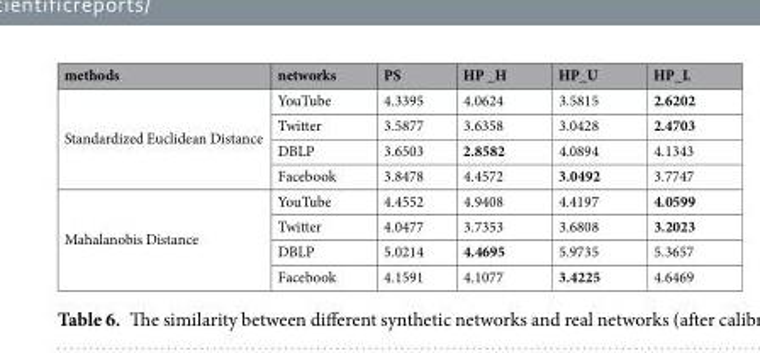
<table><thead><tr><td>methods</td><td>networks</td><td>PS</td><td>HP _H</td><td>HP_U</td><td>HP_L</td></tr></thead><tbody><tr><td rowspan="4">Standardized Euclidean Distance</td><td>YouTube</td><td>4.3395</td><td>4.0624</td><td>3.5815</td><td>2.6202</td></tr><tr><td>Twitter</td><td>3.5877</td><td>3.6358</td><td>3.0428</td><td>2.4703</td></tr><tr><td>DBLP</td><td>3.6503</td><td>2.8582</td><td>4.0894</td><td>4.1343</td></tr><tr><td>Facebook</td><td>3.8478</td><td>4.4572</td><td>3.0492</td><td>3.7747</td></tr><tr><td rowspan="4">Mahalanobis Distance</td><td>YouTube</td><td>4.4552</td><td>4.9408</td><td>4.4197</td><td>4.0599</td></tr><tr><td>Twitter</td><td>4.0477</td><td>3.7353</td><td>3.6808</td><td>3.2023</td></tr><tr><td>DBLP</td><td>5.0214</td><td>4.4695</td><td>5.9735</td><td>5.3657</td></tr><tr><td>Facebook</td><td>4.1591</td><td>4.1077</td><td>3.4225</td><td>4.6469</td></tr></tbody></table>